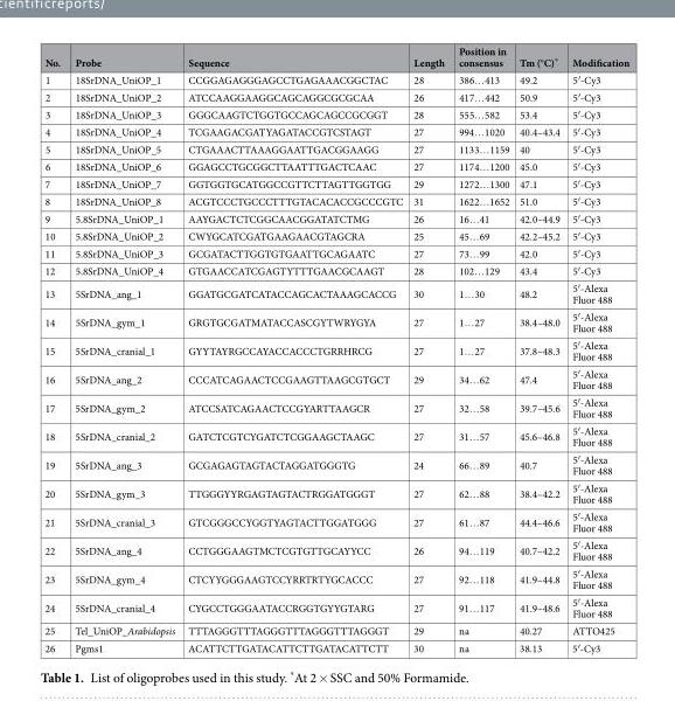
<table><thead><tr><td>No.</td><td>Probe</td><td>Sequence</td><td>Length</td><td>Position in consensus</td><td>Tm (°C)*</td><td>Modification</td></tr></thead><tbody><tr><td>1</td><td>18SrDNA_UniOP_1</td><td>CCGGAGAGGGAGCCTGAGAAACGGCTAC</td><td>28</td><td>386…413</td><td>49.2</td><td>5′-Cy3</td></tr><tr><td>2</td><td>18SrDNA_UniOP_2</td><td>ATCCAAGGAAGGCAGCAGGCGCGCAA</td><td>26</td><td>417…442</td><td>50.9</td><td>5′-Cy3</td></tr><tr><td>3</td><td>18SrDNA_UniOP_3</td><td>GGGCAAGTCTGGTGCCAGCAGCCGCGGT</td><td>28</td><td>555…582</td><td>53.4</td><td>5′-Cy3</td></tr><tr><td>4</td><td>18SrDNA_UniOP_4</td><td>TCGAAGACGATYAGATACCGTCSTAGT</td><td>27</td><td>994…1020</td><td>40.4–43.4</td><td>5′-Cy3</td></tr><tr><td>5</td><td>18SrDNA_UniOP_5</td><td>CTGAAACTTAAAGGAATTGACGGAAGG</td><td>27</td><td>1133…1159</td><td>40</td><td>5′-Cy3</td></tr><tr><td>6</td><td>18SrDNA_UniOP_6</td><td>GGAGCCTGCGGCTTAATTTGACTCAAC</td><td>27</td><td>1174…1200</td><td>45.0</td><td>5′-Cy3</td></tr><tr><td>7</td><td>18SrDNA_UniOP_7</td><td>GGTGGTGCATGGCCGTTCTTAGTTGGTGG</td><td>29</td><td>1272…1300</td><td>47.1</td><td>5′-Cy3</td></tr><tr><td>8</td><td>18SrDNA_UniOP_8</td><td>ACGTCCCTGCCCTTTGTACACACCGCCCGTC</td><td>31</td><td>1622…1652</td><td>51.0</td><td>5′-Cy3</td></tr><tr><td>9</td><td>5.8SrDNA_UniOP_1</td><td>AAYGACTCTCGGCAACGGATATCTMG</td><td>26</td><td>16…41</td><td>42.0–44.9</td><td>5′-Cy3</td></tr><tr><td>10</td><td>5.8SrDNA_UniOP_2</td><td>CWYGCATCGATGAAGAACGTAGCRA</td><td>25</td><td>45…69</td><td>42.2–45.2</td><td>5′-Cy3</td></tr><tr><td>11</td><td>5.8SrDNA_UniOP_3</td><td>GCGATACTTGGTGTGAATTGCAGAATC</td><td>27</td><td>73…99</td><td>42.0</td><td>5′-Cy3</td></tr><tr><td>12</td><td>5.8SrDNA_UniOP_4</td><td>GTGAACCATCGAGTYTTTGAACGCAAGT</td><td>28</td><td>102…129</td><td>43.4</td><td>5′-Cy3</td></tr><tr><td>13</td><td>5SrDNA_ang_1</td><td>GGATGCGATCATACCAGCACTAAAGCACCG</td><td>30</td><td>1…30</td><td>48.2</td><td>5′-Alexa Fluor 488</td></tr><tr><td>14</td><td>5SrDNA_gym_1</td><td>GRGTGCGATMATACCASCGYTWRYGYA</td><td>27</td><td>1…27</td><td>38.4–48.0</td><td>5′-Alexa Fluor 488</td></tr><tr><td>15</td><td>5SrDNA_cranial_1</td><td>GYYTAYRGCCAYACCACCCTGRRHRCG</td><td>27</td><td>1…27</td><td>37.8–48.3</td><td>5′-Alexa Fluor 488</td></tr><tr><td>16</td><td>5SrDNA_ang_2</td><td>CCCATCAGAACTCCGAAGTTAAGCGTGCT</td><td>29</td><td>34…62</td><td>47.4</td><td>5′-Alexa Fluor 488</td></tr><tr><td>17</td><td>5SrDNA_gym_2</td><td>ATCCSATCAGAACTCCGYARTTAAGCR</td><td>27</td><td>32…58</td><td>39.7–45.6</td><td>5′-Alexa Fluor 488</td></tr><tr><td>18</td><td>5SrDNA_cranial_2</td><td>GATCTCGTCYGATCTCGGAAGCTAAGC</td><td>27</td><td>31…57</td><td>45.6–46.8</td><td>5′-Alexa Fluor 488</td></tr><tr><td>19</td><td>5SrDNA_ang_3</td><td>GCGAGAGTAGTACTAGGATGGGTG</td><td>24</td><td>66…89</td><td>40.7</td><td>5′-Alexa Fluor 488</td></tr><tr><td>20</td><td>5SrDNA_gym_3</td><td>TTGGGYYRGAGTAGTACTRGGATGGGT</td><td>27</td><td>62…88</td><td>38.4–42.2</td><td>5′-Alexa Fluor 488</td></tr><tr><td>21</td><td>5SrDNA_cranial_3</td><td>GTCGGGCCYGGTYAGTACTTGGATGGG</td><td>27</td><td>61…87</td><td>44.4–46.6</td><td>5′-Alexa Fluor 488</td></tr><tr><td>22</td><td>5SrDNA_ang_4</td><td>CCTGGGAAGTMCTCGTGTTGCAYYCC</td><td>26</td><td>94…119</td><td>40.7–42.2</td><td>5′-Alexa Fluor 488</td></tr><tr><td>23</td><td>5SrDNA_gym_4</td><td>CTCYYGGGAAGTCCYRRTRTYGCACCC</td><td>27</td><td>92…118</td><td>41.9–44.8</td><td>5′-Alexa Fluor 488</td></tr><tr><td>24</td><td>5SrDNA_cranial_4</td><td>CYGCCTGGGAATACCRGGTGYYGTARG</td><td>27</td><td>91…117</td><td>41.9–48.6</td><td>5′-Alexa Fluor 488</td></tr><tr><td>25</td><td>Tel_UniOP_Arabidopsis</td><td>TTTAGGGTTTAGGGTTTAGGGTTTAGGGT</td><td>29</td><td>na</td><td>40.27</td><td>ATTO425</td></tr><tr><td>26</td><td>Pgms1</td><td>ACATTCTTGATACATTCTTGATACATTCTT</td><td>30</td><td>na</td><td>38.13</td><td>5′-Cy3</td></tr></tbody></table>